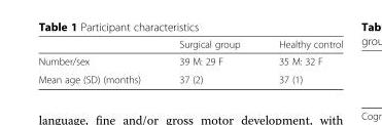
<table><thead><tr><td></td><td>Surgical group</td><td>Healthy control</td></tr></thead><tbody><tr><td>Number/sex</td><td>39 M: 29 F</td><td>35 M: 32 F</td></tr><tr><td>Mean age (SD) (months)</td><td>37 (2)</td><td>37 (1)</td></tr></tbody></table>